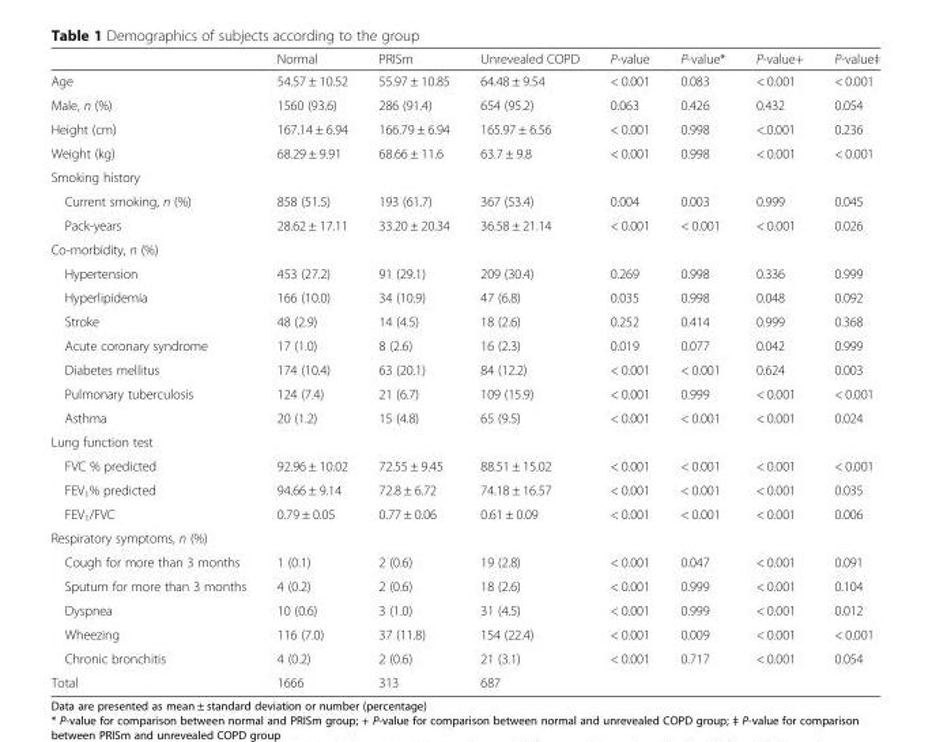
<table><thead><tr><td></td><td>Normal</td><td>PRISm</td><td>Unrevealed COPD</td><td>P-value</td><td>P-value*</td><td>P-value+</td><td>P-value‡</td></tr></thead><tbody><tr><td>Age</td><td>54.57 ± 10.52</td><td>55.97 ± 10.85</td><td>64.48 ± 9.54</td><td>&lt; 0.001</td><td>0.083</td><td>&lt; 0.001</td><td>&lt; 0.001</td></tr><tr><td>Male, n (%)</td><td>1560 (93.6)</td><td>286 (91.4)</td><td>654 (95.2)</td><td>0.063</td><td>0.426</td><td>0.432</td><td>0.054</td></tr><tr><td>Height (cm)</td><td>167.14 ± 6.94</td><td>166.79 ± 6.94</td><td>165.97 ± 6.56</td><td>&lt; 0.001</td><td>0.998</td><td>&lt;.0.001</td><td>0.236</td></tr><tr><td>Weight (kg)</td><td>68.29 ± 9.91</td><td>68.66 ± 11.6</td><td>63.7 ± 9.8</td><td>&lt; 0.001</td><td>0.998</td><td>&lt; 0.001</td><td>&lt; 0.001</td></tr><tr><td colspan="8">Smoking history</td></tr><tr><td>Current smoking, n (%)</td><td>858 (51.5)</td><td>193 (61.7)</td><td>367 (53.4)</td><td>0.004</td><td>0.003</td><td>0.999</td><td>0.045</td></tr><tr><td>Pack-years</td><td>28.62 ± 17.11</td><td>33.20 ± 20.34</td><td>36.58 ± 21.14</td><td>&lt; 0.001</td><td>&lt; 0.001</td><td>&lt; 0.001</td><td>0.026</td></tr><tr><td colspan="8">Co-morbidity, n (%)</td></tr><tr><td>Hypertension</td><td>453 (27.2)</td><td>91 (29.1)</td><td>209 (30.4)</td><td>0.269</td><td>0.998</td><td>0.336</td><td>0.999</td></tr><tr><td>Hyperlipidemia</td><td>166 (10.0)</td><td>34 (10.9)</td><td>47 (6.8)</td><td>0.035</td><td>0.998</td><td>0.048</td><td>0.092</td></tr><tr><td>Stroke</td><td>48 (2.9)</td><td>14 (4.5)</td><td>18 (2.6)</td><td>0.252</td><td>0.414</td><td>0.999</td><td>0.368</td></tr><tr><td>Acute coronary syndrome</td><td>17 (1.0)</td><td>8 (2.6)</td><td>16 (2.3)</td><td>0.019</td><td>0.077</td><td>0.042</td><td>0.999</td></tr><tr><td>Diabetes mellitus</td><td>174 (10.4)</td><td>63 (20.1)</td><td>84 (12.2)</td><td>&lt; 0.001</td><td>&lt; 0.001</td><td>0.624</td><td>0.003</td></tr><tr><td>Pulmonary tuberculosis</td><td>124 (7.4)</td><td>21 (6.7)</td><td>109 (15.9)</td><td>&lt; 0.001</td><td>0.999</td><td>&lt; 0.001</td><td>&lt; 0.001</td></tr><tr><td>Asthma</td><td>20 (1.2)</td><td>15 (4.8)</td><td>65 (9.5)</td><td>&lt; 0.001</td><td>&lt; 0.001</td><td>&lt; 0.001</td><td>0.024</td></tr><tr><td colspan="8">Lung function test</td></tr><tr><td>FVC % predicted</td><td>92.96 ± 10.02</td><td>72.55 ± 9.45</td><td>88.51 ± 15.02</td><td>&lt; 0.001</td><td>&lt; 0.001</td><td>&lt; 0.001</td><td>&lt; 0.001</td></tr><tr><td>FEV<sub>1</sub>% predicted</td><td>94.66 ± 9.14</td><td>72.8 ± 6.72</td><td>74.18 ± 16.57</td><td>&lt; 0.001</td><td>&lt; 0.001</td><td>&lt; 0.001</td><td>0.035</td></tr><tr><td>FEV<sub>1</sub>/FVC</td><td>0.79 ± 0.05</td><td>0.77 ± 0.06</td><td>0.61 ± 0.09</td><td>&lt; 0.001</td><td>&lt; 0.001</td><td>&lt; 0.001</td><td>0.006</td></tr><tr><td colspan="8">Respiratory symptoms, n (%)</td></tr><tr><td>Cough for more than 3 months</td><td>1 (0.1)</td><td>2 (0.6)</td><td>19 (2.8)</td><td>&lt; 0.001</td><td>0.047</td><td>&lt; 0.001</td><td>0.091</td></tr><tr><td>Sputum for more than 3 months</td><td>4 (0.2)</td><td>2 (0.6)</td><td>18 (2.6)</td><td>&lt; 0.001</td><td>0.999</td><td>&lt; 0.001</td><td>0.104</td></tr><tr><td>Dyspnea</td><td>10 (0.6)</td><td>3 (1.0)</td><td>31 (4.5)</td><td>&lt; 0.001</td><td>0.999</td><td>&lt; 0.001</td><td>0.012</td></tr><tr><td>Wheezing</td><td>116 (7.0)</td><td>37 (11.8)</td><td>154 (22.4)</td><td>&lt; 0.001</td><td>0.009</td><td>&lt; 0.001</td><td>&lt; 0.001</td></tr><tr><td>Chronic bronchitis</td><td>4 (0.2)</td><td>2 (0.6)</td><td>21 (3.1)</td><td>&lt; 0.001</td><td>0.717</td><td>&lt; 0.001</td><td>0.054</td></tr><tr><td>Total</td><td>1666</td><td>313</td><td>687</td><td></td><td></td><td></td><td></td></tr></tbody></table>